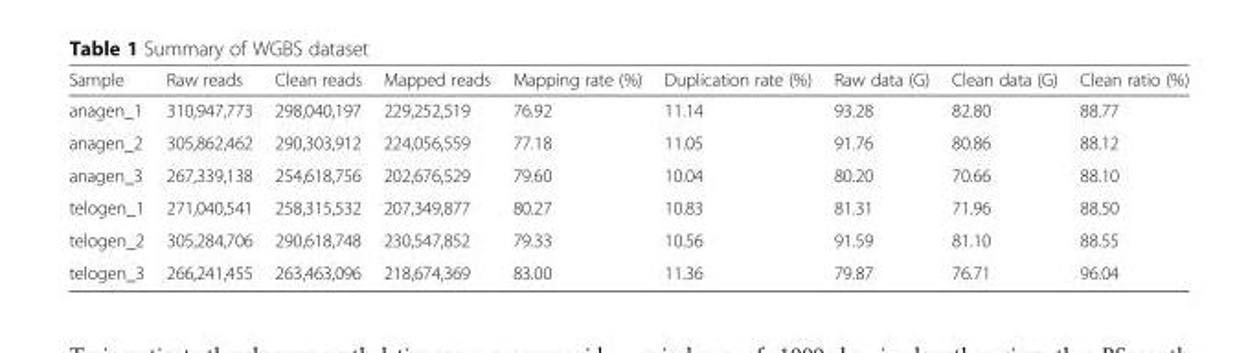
<table><thead><tr><td>Sample</td><td>Raw reads</td><td>Clean reads</td><td>Mapped reads</td><td>Mapping rate (%)</td><td>Duplication rate (%)</td><td>Raw data (G)</td><td>Clean data (G)</td><td>Clean ratio (%)</td></tr></thead><tbody><tr><td>anagen_1</td><td>310,947,773</td><td>298,040,197</td><td>229,252,519</td><td>76.92</td><td>11.14</td><td>93.28</td><td>82.80</td><td>88.77</td></tr><tr><td>anagen_2</td><td>305,862,462</td><td>290,303,912</td><td>224,056,559</td><td>77.18</td><td>11.05</td><td>91.76</td><td>80.86</td><td>88.12</td></tr><tr><td>anagen_3</td><td>267,339,138</td><td>254,618,756</td><td>202,676,529</td><td>79.60</td><td>10.04</td><td>80.20</td><td>70.66</td><td>88.10</td></tr><tr><td>telogen_1</td><td>271,040,541</td><td>258,315,532</td><td>207,349,877</td><td>80.27</td><td>10.83</td><td>81.31</td><td>71.96</td><td>88.50</td></tr><tr><td>telogen_2</td><td>305,284,706</td><td>290,618,748</td><td>230,547,852</td><td>79.33</td><td>10.56</td><td>91.59</td><td>81.10</td><td>88.55</td></tr><tr><td>telogen_3</td><td>266,241,455</td><td>263,463,096</td><td>218,674,369</td><td>83.00</td><td>11.36</td><td>79.87</td><td>76.71</td><td>96.04</td></tr></tbody></table>